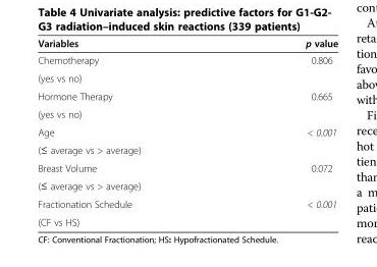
<table><thead><tr><td>Variables</td><td>p value</td></tr></thead><tbody><tr><td>Chemotherapy</td><td rowspan="2">0.806</td></tr><tr><td>(yes vs no)</td></tr><tr><td>Hormone Therapy</td><td rowspan="2">0.665</td></tr><tr><td>(yes vs no)</td></tr><tr><td>Age</td><td rowspan="2">&lt; 0.001</td></tr><tr><td>(≤ average vs &gt; average)</td></tr><tr><td>Breast Volume</td><td rowspan="2">0.072</td></tr><tr><td>(≤ average vs &gt; average)</td></tr><tr><td>Fractionation Schedule</td><td>&lt; 0.001</td></tr><tr><td>(CF vs HS)</td><td></td></tr></tbody></table>